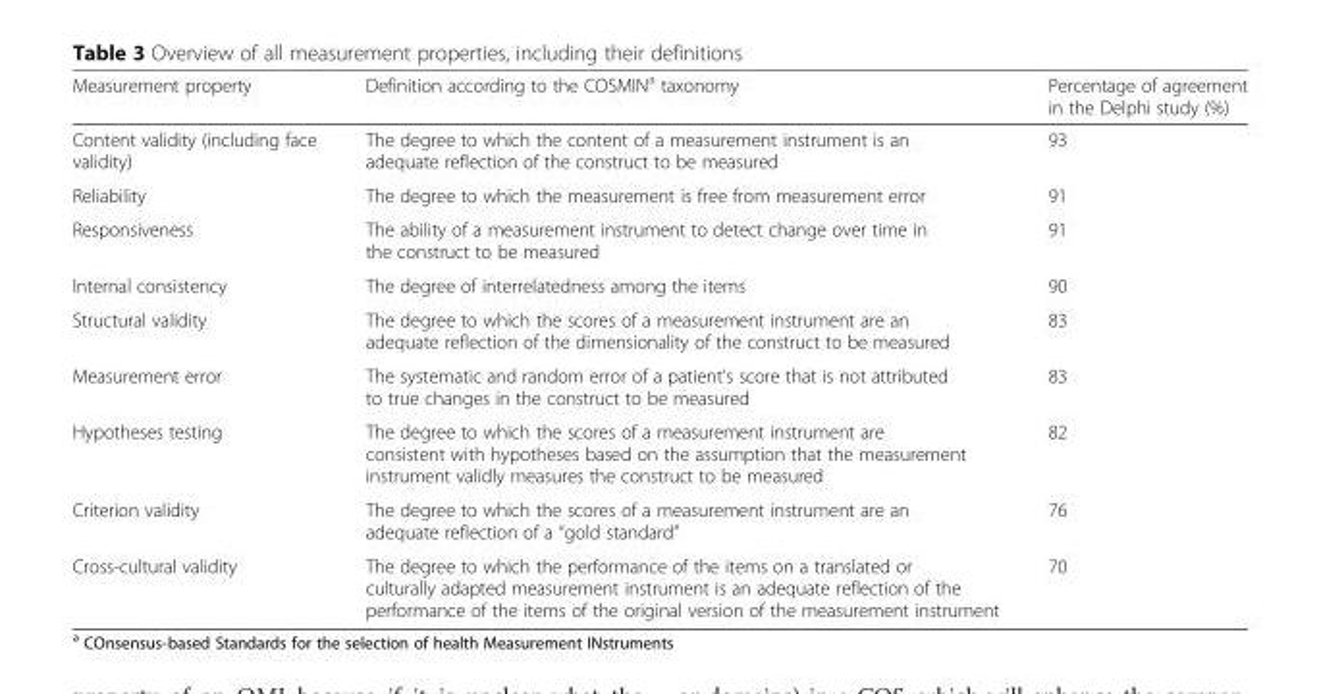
<table><thead><tr><td>Measurement property</td><td>Definition according to the COSMIN<sup>a</sup> taxonomy</td><td>Percentage of agreement in the Delphi study (%)</td></tr></thead><tbody><tr><td>Content validity (including face validity)</td><td>The degree to which the content of a measurement instrument is an adequate reflection of the construct to be measured</td><td>93</td></tr><tr><td>Reliability</td><td>The degree to which the measurement is free from measurement error</td><td>91</td></tr><tr><td>Responsiveness</td><td>The ability of a measurement instrument to detect change over time in the construct to be measured</td><td>91</td></tr><tr><td>Internal consistency</td><td>The degree of interrelatedness among the items</td><td>90</td></tr><tr><td>Structural validity</td><td>The degree to which the scores of a measurement instrument are an adequate reflection of the dimensionality of the construct to be measured</td><td>83</td></tr><tr><td>Measurement error</td><td>The systematic and random error of a patient’s score that is not attributed to true changes in the construct to be measured</td><td>83</td></tr><tr><td>Hypotheses testing</td><td>The degree to which the scores of a measurement instrument are consistent with hypotheses based on the assumption that the measurement instrument validly measures the construct to be measured</td><td>82</td></tr><tr><td>Criterion validity</td><td>The degree to which the scores of a measurement instrument are an adequate reflection of a “gold standard”</td><td>76</td></tr><tr><td>Cross-cultural validity</td><td>The degree to which the performance of the items on a translated or culturally adapted measurement instrument is an adequate reflection of the performance of the items of the original version of the measurement instrument</td><td>70</td></tr></tbody></table>